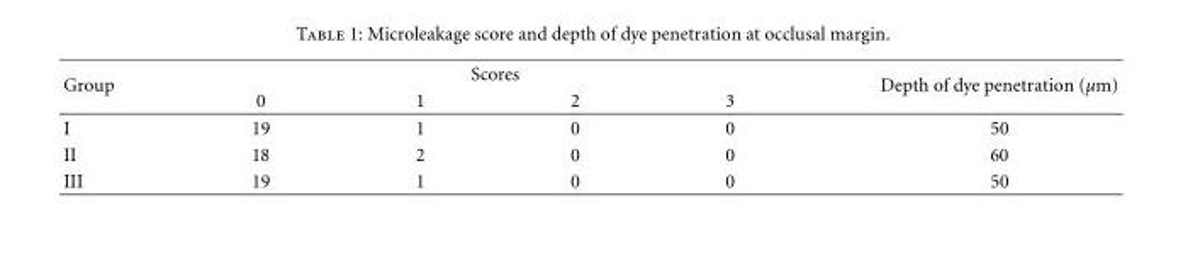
<table><thead><tr><td rowspan="2">Group</td><td colspan="4">Scores</td><td rowspan="2">Depth of dye penetration (µm)</td></tr><tr><td>0</td><td>1</td><td>2</td><td>3</td></tr></thead><tbody><tr><td>I</td><td>19</td><td>1</td><td>0</td><td>0</td><td>50</td></tr><tr><td>II</td><td>18</td><td>2</td><td>0</td><td>0</td><td>60</td></tr><tr><td>III</td><td>19</td><td>1</td><td>0</td><td>0</td><td>50</td></tr></tbody></table>